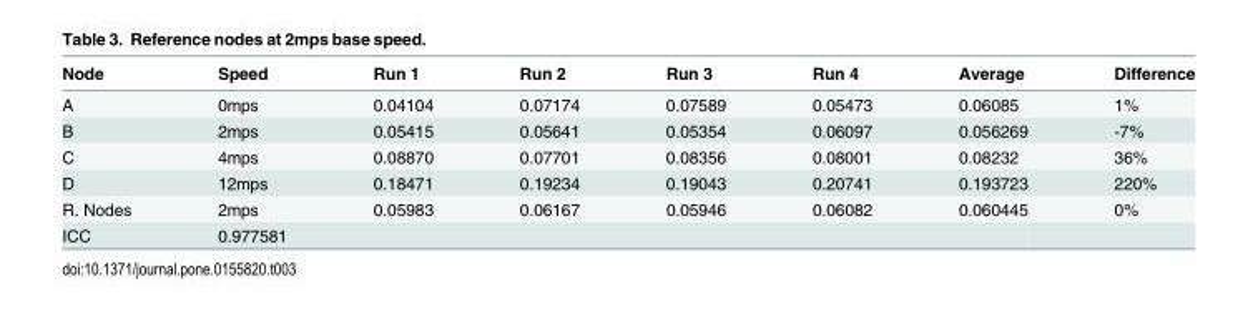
<table><thead><tr><td>Node</td><td>Speed</td><td>Run 1</td><td>Run 2</td><td>Run 3</td><td>Run 4</td><td>Average</td><td>Difference</td></tr></thead><tbody><tr><td>A</td><td>0mps</td><td>0.04104</td><td>0.07174</td><td>0.07589</td><td>0.05473</td><td>0.06085</td><td>1%</td></tr><tr><td>B</td><td>2mps</td><td>0.05415</td><td>0.05641</td><td>0.05354</td><td>0.06097</td><td>0.056269</td><td>-7%</td></tr><tr><td>C</td><td>4mps</td><td>0.08870</td><td>0.07701</td><td>0.08356</td><td>0.08001</td><td>0.08232</td><td>36%</td></tr><tr><td>D</td><td>12mps</td><td>0.18471</td><td>0.19234</td><td>0.19043</td><td>0.20741</td><td>0.193723</td><td>220%</td></tr><tr><td>R. Nodes</td><td>2mps</td><td>0.05983</td><td>0.06167</td><td>0.05946</td><td>0.06082</td><td>0.060445</td><td>0%</td></tr><tr><td>ICC</td><td>0.977581</td><td></td><td></td><td></td><td></td><td></td><td></td></tr></tbody></table>